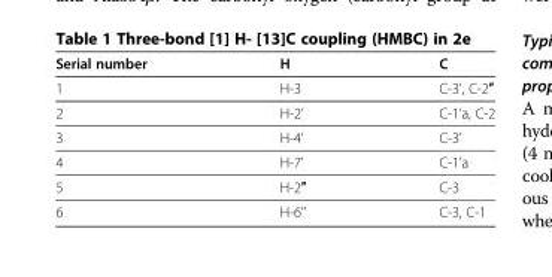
<table><thead><tr><td>Serial number</td><td>H</td><td>C</td></tr></thead><tbody><tr><td>1</td><td>H-3</td><td>C-3’, C-2″</td></tr><tr><td>2</td><td>H-2’</td><td>C-1’a, C-2</td></tr><tr><td>3</td><td>H-4’</td><td>C-3’</td></tr><tr><td>4</td><td>H-7’</td><td>C-1’a</td></tr><tr><td>5</td><td>H-2″</td><td>C-3</td></tr><tr><td>6</td><td>H-6’’</td><td>C-3, C-1</td></tr></tbody></table>